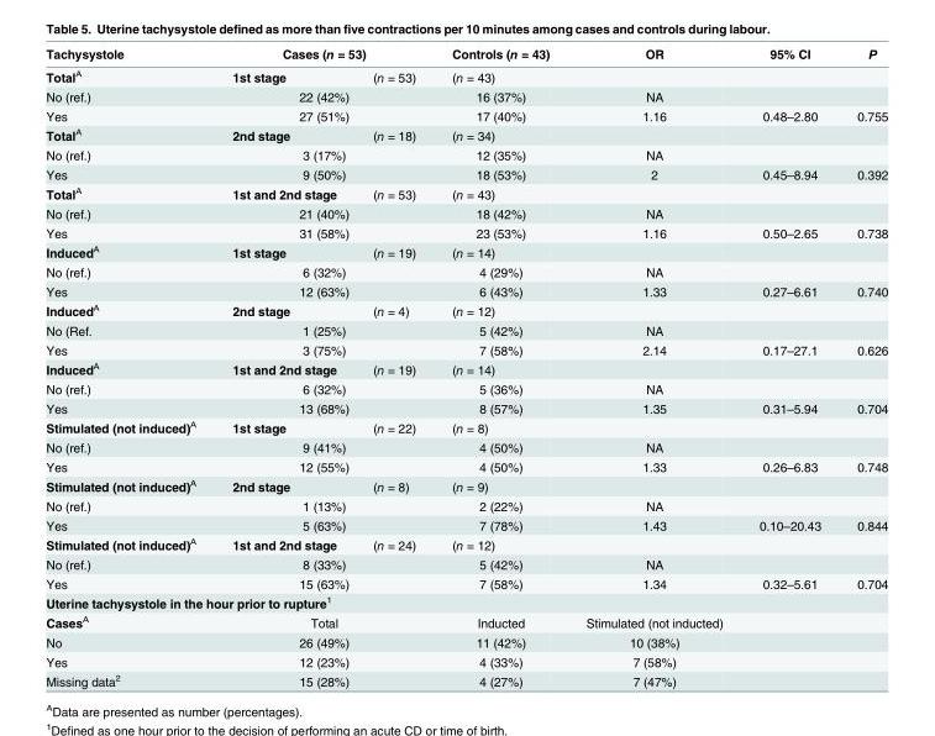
<table><thead><tr><td rowspan="2">Tachysystole Total<sup>A</sup></td><td colspan="2">Cases (n = 53)</td><td rowspan="2">Controls (n = 43) (n = 43)</td><td rowspan="2">OR</td><td rowspan="2">95% CI</td><td rowspan="2">P</td></tr><tr><td>1st stage</td><td>(n = 53)</td></tr></thead><tbody><tr><td>No (ref.)</td><td colspan="2">22 (42%)</td><td>16 (37%)</td><td>NA</td><td></td><td></td></tr><tr><td>Yes</td><td colspan="2">27 (51%)</td><td>17 (40%)</td><td>1.16</td><td>0.48–2.80</td><td>0.755</td></tr><tr><td>Total<sup>A</sup></td><td>2nd stage</td><td>(n = 18)</td><td>(n = 34)</td><td></td><td></td><td></td></tr><tr><td>No (ref.)</td><td colspan="2">3 (17%)</td><td>12 (35%)</td><td>NA</td><td></td><td></td></tr><tr><td>Yes</td><td colspan="2">9 (50%)</td><td>18 (53%)</td><td>2</td><td>0.45–8.94</td><td>0.392</td></tr><tr><td>Total<sup>A</sup></td><td>1st and 2nd stage</td><td>(n = 53)</td><td>(n = 43)</td><td></td><td></td><td></td></tr><tr><td>No (ref.)</td><td colspan="2">21 (40%)</td><td>18 (42%)</td><td>NA</td><td></td><td></td></tr><tr><td>Yes</td><td colspan="2">31 (58%)</td><td>23 (53%)</td><td>1.16</td><td>0.50–2.65</td><td>0.738</td></tr><tr><td>Induced<sup>A</sup></td><td>1st stage</td><td>(n = 19)</td><td>(n = 14)</td><td></td><td></td><td></td></tr><tr><td>No (ref.)</td><td colspan="2">6 (32%)</td><td>4 (29%)</td><td>NA</td><td></td><td></td></tr><tr><td>Yes</td><td colspan="2">12 (63%)</td><td>6 (43%)</td><td>1.33</td><td>0.27–6.61</td><td>0.740</td></tr><tr><td>Induced<sup>A</sup></td><td>2nd stage</td><td>(n = 4)</td><td>(n = 12)</td><td></td><td></td><td></td></tr><tr><td>No (Ref.</td><td colspan="2">1 (25%)</td><td>5 (42%)</td><td>NA</td><td></td><td></td></tr><tr><td>Yes</td><td colspan="2">3 (75%)</td><td>7 (58%)</td><td>2.14</td><td>0.17–27.1</td><td>0.626</td></tr><tr><td>Induced<sup>A</sup></td><td>1st and 2nd stage</td><td>(n = 19)</td><td>(n = 14)</td><td></td><td></td><td></td></tr><tr><td>No (ref.)</td><td colspan="2">6 (32%)</td><td>5 (36%)</td><td>NA</td><td></td><td></td></tr><tr><td>Yes</td><td colspan="2">13 (68%)</td><td>8 (57%)</td><td>1.35</td><td>0.31–5.94</td><td>0.704</td></tr><tr><td>Stimulated (not induced)<sup>A</sup></td><td>1st stage</td><td>(n = 22)</td><td>(n = 8)</td><td></td><td></td><td></td></tr><tr><td>No (ref.)</td><td colspan="2">9 (41%)</td><td>4 (50%)</td><td>NA</td><td></td><td></td></tr><tr><td>Yes</td><td colspan="2">12 (55%)</td><td>4 (50%)</td><td>1.33</td><td>0.26–6.83</td><td>0.748</td></tr><tr><td>Stimulated (not induced)<sup>A</sup></td><td>2nd stage</td><td>(n = 8)</td><td>(n = 9)</td><td></td><td></td><td></td></tr><tr><td>No (ref.)</td><td colspan="2">1 (13%)</td><td>2 (22%)</td><td>NA</td><td></td><td></td></tr><tr><td>Yes</td><td colspan="2">5 (63%)</td><td>7 (78%)</td><td>1.43</td><td>0.10–20.43</td><td>0.844</td></tr><tr><td>Stimulated (not induced)<sup>A</sup></td><td>1st and 2nd stage</td><td>(n = 24)</td><td>(n = 12)</td><td></td><td></td><td></td></tr><tr><td>No (ref.)</td><td colspan="2">8 (33%)</td><td>5 (42%)</td><td>NA</td><td></td><td></td></tr><tr><td>Yes</td><td colspan="2">15 (63%)</td><td>7 (58%)</td><td>1.34</td><td>0.32–5.61</td><td>0.704</td></tr><tr><td colspan="7">Uterine tachysystole in the hour prior to rupture<sup>1</sup></td></tr><tr><td>Cases<sup>A</sup></td><td colspan="2">Total</td><td>Inducted</td><td>Stimulated (not inducted)</td><td></td><td></td></tr><tr><td>No</td><td colspan="2">26 (49%)</td><td>11 (42%)</td><td>10 (38%)</td><td></td><td></td></tr><tr><td>Yes</td><td colspan="2">12 (23%)</td><td>4 (33%)</td><td>7 (58%)</td><td></td><td></td></tr><tr><td>Missing data<sup>2</sup></td><td colspan="2">15 (28%)</td><td>4 (27%)</td><td>7 (47%)</td><td></td><td></td></tr></tbody></table>